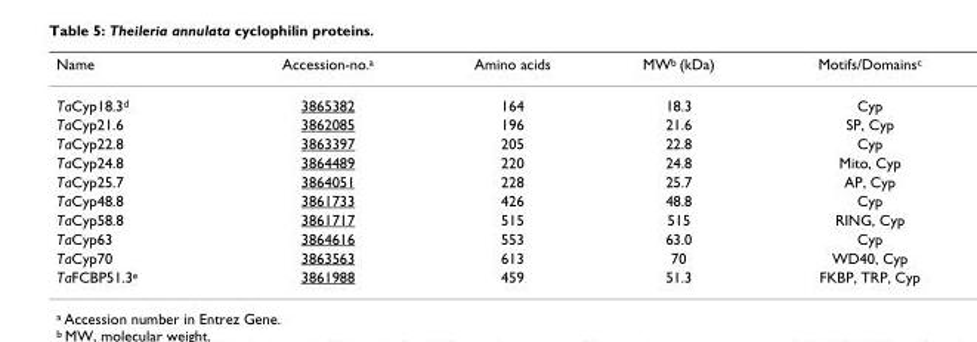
<table><thead><tr><td>Name</td><td>Accession-no.<sup>a</sup></td><td>Amino acids</td><td>MW<sup>b</sup> (kDa)</td><td>Motifs/Domains<sup>c</sup></td></tr></thead><tbody><tr><td>TaCyp18.3<sup>d</sup></td><td>3865382</td><td>164</td><td>18.3</td><td>Cyp</td></tr><tr><td>TaCyp21.6</td><td>3862085</td><td>196</td><td>21.6</td><td>SP, Cyp</td></tr><tr><td>TaCyp22.8</td><td>3863397</td><td>205</td><td>22.8</td><td>Cyp</td></tr><tr><td>TaCyp24.8</td><td>3864489</td><td>220</td><td>24.8</td><td>Mito, Cyp</td></tr><tr><td>TaCyp25.7</td><td>3864051</td><td>228</td><td>25.7</td><td>AP, Cyp</td></tr><tr><td>TaCyp48.8</td><td>3861733</td><td>426</td><td>48.8</td><td>Cyp</td></tr><tr><td>TaCyp58.8</td><td>3861717</td><td>515</td><td>515</td><td>RING, Cyp</td></tr><tr><td>TaCyp63</td><td>3864616</td><td>553</td><td>63.0</td><td>Cyp</td></tr><tr><td>TaCyp70</td><td>3863563</td><td>613</td><td>70</td><td>WD40, Cyp</td></tr><tr><td>TaFCBP51.3<sup>e</sup></td><td>3861988</td><td>459</td><td>51.3</td><td>FKBP, TRP, Cyp</td></tr></tbody></table>